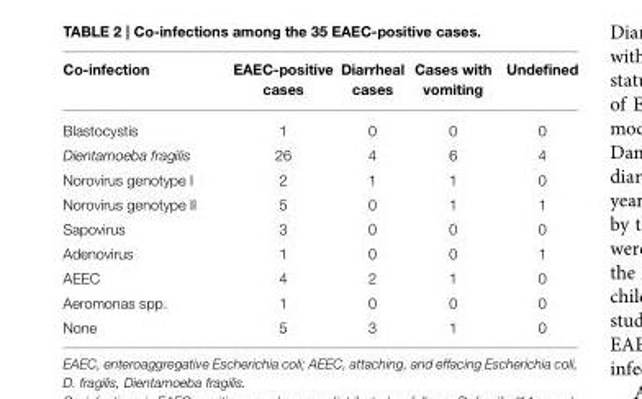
<table><thead><tr><td>Co-infection</td><td>EAEC-positive cases</td><td>Diarrheal cases</td><td>Cases with vomiting</td><td>Undefined</td></tr></thead><tbody><tr><td>Blastocystis</td><td>1</td><td>0</td><td>0</td><td>0</td></tr><tr><td>Dientamoeba fragilis</td><td>26</td><td>4</td><td>6</td><td>4</td></tr><tr><td>Norovirus genotype I</td><td>2</td><td>1</td><td>1</td><td>0</td></tr><tr><td>Norovirus genotype II</td><td>5</td><td>0</td><td>1</td><td>1</td></tr><tr><td>Sapovirus</td><td>3</td><td>0</td><td>0</td><td>0</td></tr><tr><td>Adenovirus</td><td>1</td><td>0</td><td>0</td><td>1</td></tr><tr><td>AEEC</td><td>4</td><td>2</td><td>1</td><td>0</td></tr><tr><td>Aeromonas spp.</td><td>1</td><td>0</td><td>0</td><td>0</td></tr><tr><td>None</td><td>5</td><td>3</td><td>1</td><td>0</td></tr></tbody></table>